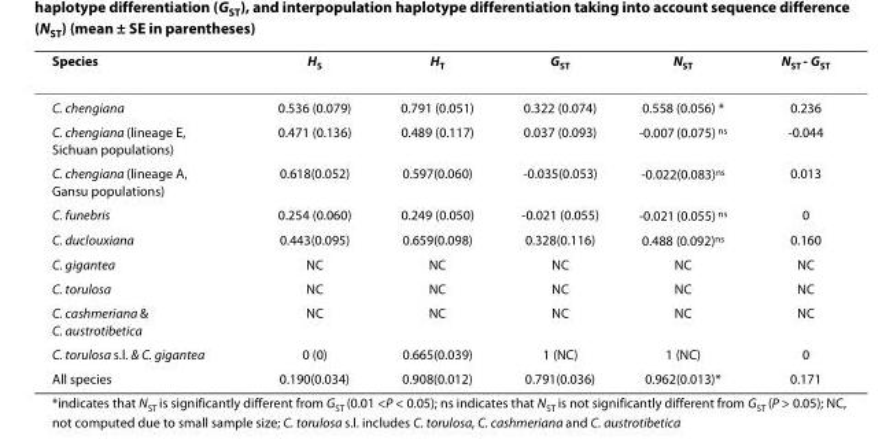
<table><thead><tr><td>Species</td><td>H<sub>S</sub></td><td>H<sub>T</sub></td><td>G<sub>ST</sub></td><td>N<sub>ST</sub></td><td>N<sub>ST</sub> - G<sub>ST</sub></td></tr></thead><tbody><tr><td>C. chengiana</td><td>0.536 (0.079)</td><td>0.791 (0.051)</td><td>0.322 (0.074)</td><td>0.558 (0.056) *</td><td>0.236</td></tr><tr><td>C. chengiana (lineage E, Sichuan populations)</td><td>0.471 (0.136)</td><td>0.489 (0.117)</td><td>0.037 (0.093)</td><td>-0.007 (0.075) <sup>ns</sup></td><td>-0.044</td></tr><tr><td>C. chengiana (lineage A, Gansu populations)</td><td>0.618(0.052)</td><td>0.597(0.060)</td><td>-0.035(0.053)</td><td>-0.022(0.083)<sup>ns</sup></td><td>0.013</td></tr><tr><td>C. funebris</td><td>0.254 (0.060)</td><td>0.249 (0.050)</td><td>-0.021 (0.055)</td><td>-0.021 (0.055) <sup>ns</sup></td><td>0</td></tr><tr><td>C. duclouxiana</td><td>0.443(0.095)</td><td>0.659(0.098)</td><td>0.328(0.116)</td><td>0.488 (0.092)<sup>ns</sup></td><td>0.160</td></tr><tr><td>C. gigantea</td><td>NC</td><td>NC</td><td>NC</td><td>NC</td><td>NC</td></tr><tr><td>C. torulosa</td><td>NC</td><td>NC</td><td>NC</td><td>NC</td><td>NC</td></tr><tr><td>C. cashmeriana &amp; C. austrotibetica</td><td>NC</td><td>NC</td><td>NC</td><td>NC</td><td>NC</td></tr><tr><td>C. torulosa s.l. &amp; C. gigantea</td><td>0 (0)</td><td>0.665(0.039)</td><td>1 (NC)</td><td>1 (NC)</td><td>0</td></tr><tr><td>All species</td><td>0.190(0.034)</td><td>0.908(0.012)</td><td>0.791(0.036)</td><td>0.962(0.013)*</td><td>0.171</td></tr></tbody></table>